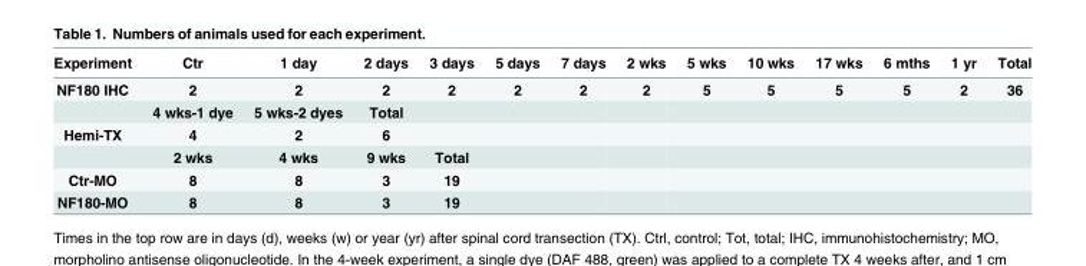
<table><thead><tr><td>Experiment</td><td>Ctr</td><td>1 day</td><td>2 days</td><td>3 days</td><td>5 days</td><td>7 days</td><td>2 wks</td><td>5 wks</td><td>10 wks</td><td>17 wks</td><td>6 mths</td><td>1 yr</td><td>Total</td></tr></thead><tbody><tr><td rowspan="2">NF180 IHC</td><td>2</td><td>2</td><td>2</td><td>2</td><td>2</td><td>2</td><td>2</td><td>5</td><td>5</td><td>5</td><td>5</td><td>2</td><td>36</td></tr><tr><td>4 wks-1 dye</td><td>5 wks-2 dyes</td><td>Total</td><td></td><td></td><td></td><td></td><td></td><td></td><td></td><td></td><td></td><td></td></tr><tr><td rowspan="2">Hemi-TX</td><td>4</td><td>2</td><td>6</td><td></td><td></td><td></td><td></td><td></td><td></td><td></td><td></td><td></td><td></td></tr><tr><td>2 wks</td><td>4 wks</td><td>9 wks</td><td>Total</td><td></td><td></td><td></td><td></td><td></td><td></td><td></td><td></td><td></td></tr><tr><td>Ctr-MO</td><td>8</td><td>8</td><td>3</td><td>19</td><td></td><td></td><td></td><td></td><td></td><td></td><td></td><td></td><td></td></tr><tr><td>NF180-MO</td><td>8</td><td>8</td><td>3</td><td>19</td><td></td><td></td><td></td><td></td><td></td><td></td><td></td><td></td><td></td></tr></tbody></table>